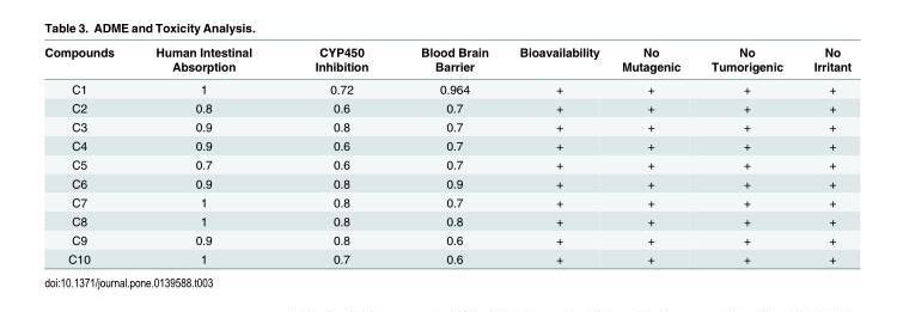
<table><thead><tr><td>Compounds</td><td>Human Intestinal Absorption</td><td>CYP450 Inhibition</td><td>Blood Brain Barrier</td><td>Bioavailability</td><td>No Mutagenic</td><td>No Tumorigenic</td><td>No Irritant</td></tr></thead><tbody><tr><td>C1</td><td>1</td><td>0.72</td><td>0.964</td><td>+</td><td>+</td><td>+</td><td>+</td></tr><tr><td>C2</td><td>0.8</td><td>0.6</td><td>0.7</td><td>+</td><td>+</td><td>+</td><td>+</td></tr><tr><td>C3</td><td>0.9</td><td>0.8</td><td>0.7</td><td>+</td><td>+</td><td>+</td><td>+</td></tr><tr><td>C4</td><td>0.9</td><td>0.6</td><td>0.7</td><td>+</td><td>+</td><td>+</td><td>+</td></tr><tr><td>C5</td><td>0.7</td><td>0.6</td><td>0.7</td><td>+</td><td>+</td><td>+</td><td>+</td></tr><tr><td>C6</td><td>0.9</td><td>0.8</td><td>0.9</td><td>+</td><td>+</td><td>+</td><td>+</td></tr><tr><td>C7</td><td>1</td><td>0.8</td><td>0.7</td><td>+</td><td>+</td><td>+</td><td>+</td></tr><tr><td>C8</td><td>1</td><td>0.8</td><td>0.8</td><td>+</td><td>+</td><td>+</td><td>+</td></tr><tr><td>C9</td><td>0.9</td><td>0.8</td><td>0.6</td><td>+</td><td>+</td><td>+</td><td>+</td></tr><tr><td>C10</td><td>1</td><td>0.7</td><td>0.6</td><td>+</td><td>+</td><td>+</td><td>+</td></tr></tbody></table>